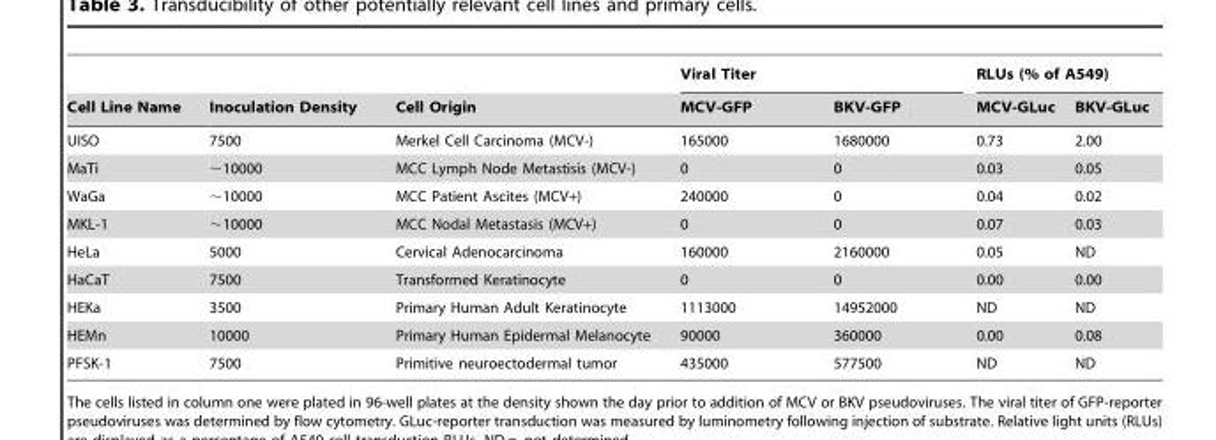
<table><thead><tr><td rowspan="2">Cell Line Name</td><td rowspan="2">Inoculation Density</td><td rowspan="2">Cell Origin</td><td colspan="2">Viral Titer</td><td colspan="2">RLUs (% of A549)</td></tr><tr><td>MCV-GFP</td><td>BKV-GFP</td><td>MCV-GLuc</td><td>BKV-GLuc</td></tr></thead><tbody><tr><td>UISO</td><td>7500</td><td>Merkel Cell Carcinoma (MCV-)</td><td>165000</td><td>1680000</td><td>0.73</td><td>2.00</td></tr><tr><td>MaTi</td><td>∼10000</td><td>MCC Lymph Node Metastisis (MCV-)</td><td>0</td><td>0</td><td>0.03</td><td>0.05</td></tr><tr><td>WaGa</td><td>∼10000</td><td>MCC Patient Ascites (MCV+)</td><td>240000</td><td>0</td><td>0.04</td><td>0.02</td></tr><tr><td>MKL-1</td><td>∼10000</td><td>MCC Nodal Metastasis (MCV+)</td><td>0</td><td>0</td><td>0.07</td><td>0.03</td></tr><tr><td>HeLa</td><td>5000</td><td>Cervical Adenocarcinoma</td><td>160000</td><td>2160000</td><td>0.05</td><td>ND</td></tr><tr><td>HaCaT</td><td>7500</td><td>Transformed Keratinocyte</td><td>0</td><td>0</td><td>0.00</td><td>0.00</td></tr><tr><td>HEKa</td><td>3500</td><td>Primary Human Adult Keratinocyte</td><td>1113000</td><td>14952000</td><td>ND</td><td>ND</td></tr><tr><td>HEMn</td><td>10000</td><td>Primary Human Epidermal Melanocyte</td><td>90000</td><td>360000</td><td>0.00</td><td>0.08</td></tr><tr><td>PFSK-1</td><td>7500</td><td>Primitive neuroectodermal tumor</td><td>435000</td><td>577500</td><td>ND</td><td>ND</td></tr></tbody></table>